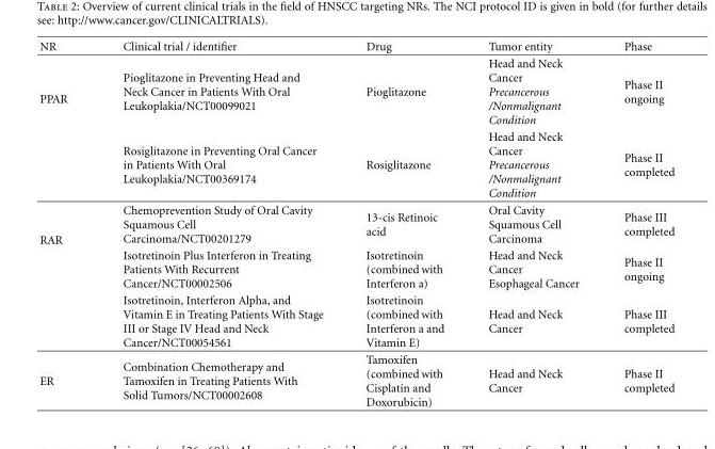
<table><thead><tr><td>NR</td><td>Clinical trial / identifier</td><td>Drug</td><td>Tumor entity</td><td>Phase</td></tr></thead><tbody><tr><td rowspan="2">PPAR</td><td>Pioglitazone in Preventing Head and Neck Cancer in Patients With Oral Leukoplakia/NCT00099021</td><td>Pioglitazone</td><td>Head and Neck Cancer Precancerous /Nonmalignant Condition</td><td>Phase II ongoing</td></tr><tr><td>Rosiglitazone in Preventing Oral Cancer in Patients With Oral Leukoplakia/NCT00369174</td><td>Rosiglitazone</td><td>Head and Neck Cancer Precancerous /Nonmalignant Condition</td><td>Phase II completed</td></tr><tr><td rowspan="3">RAR</td><td>Chemoprevention Study of Oral Cavity Squamous Cell Carcinoma/NCT00201279</td><td>13-cis Retinoic acid</td><td>Oral Cavity Squamous Cell Carcinoma</td><td>Phase III completed</td></tr><tr><td>Isotretinoin Plus Interferon in Treating Patients With Recurrent Cancer/NCT00002506</td><td>Isotretinoin (combined with Interferon a)</td><td>Head and Neck Cancer Esophageal Cancer</td><td>Phase II ongoing</td></tr><tr><td>Isotretinoin, Interferon Alpha, and Vitamin E in Treating Patients With Stage III or Stage IV Head and Neck Cancer/NCT00054561</td><td>Isotretinoin (combined with Interferon a and Vitamin E)</td><td>Head and Neck Cancer</td><td>Phase III completed</td></tr><tr><td>ER</td><td>Combination Chemotherapy and Tamoxifen in Treating Patients With Solid Tumors/NCT00002608</td><td>Tamoxifen (combined with Cisplatin and Doxorubicin)</td><td>Head and Neck Cancer</td><td>Phase II completed</td></tr></tbody></table>